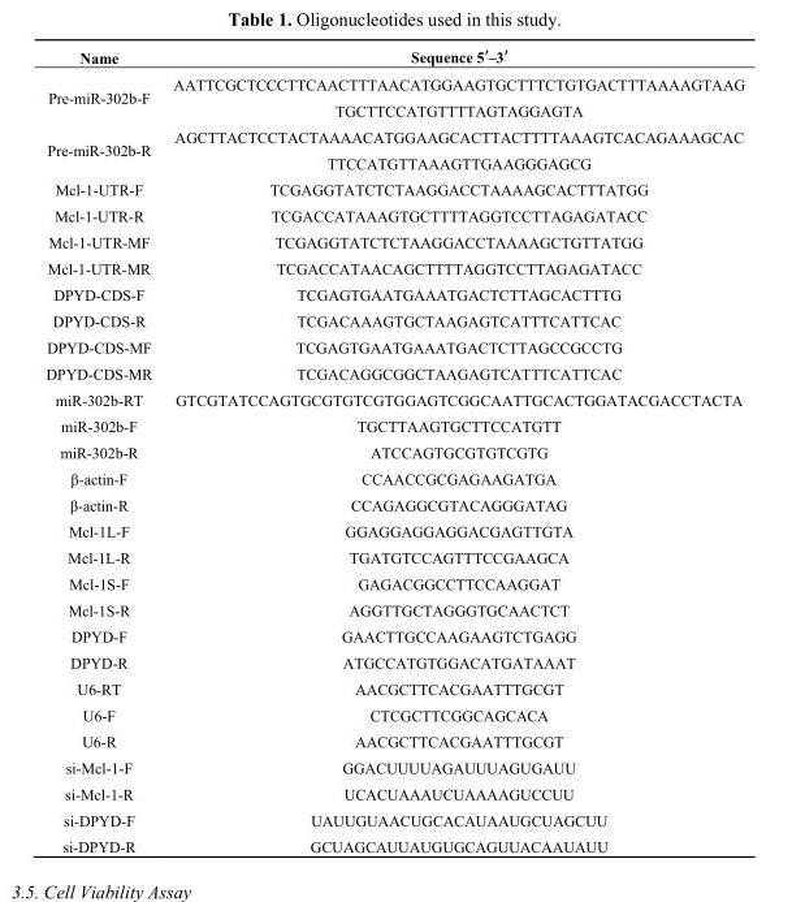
<table><thead><tr><td>Name</td><td>Sequence 5′–3′</td></tr></thead><tbody><tr><td>Pre-miR-302b-F</td><td>AATTCGCTCCCTTCAACTTTAACATGGAAGTGCTTTCTGTGACTTTAAAAGTAAG TGCTTCCATGTTTTAGTAGGAGTA</td></tr><tr><td>Pre-miR-302b-R</td><td>AGCTTACTCCTACTAAAACATGGAAGCACTTACTTTTAAAGTCACAGAAAGCAC TTCCATGTTAAAGTTGAAGGGAGCG</td></tr><tr><td>Mcl-1-UTR-F</td><td>TCGAGGTATCTCTAAGGACCTAAAAGCACTTTATGG</td></tr><tr><td>Mcl-1-UTR-R</td><td>TCGACCATAAAGTGCTTTTAGGTCCTTAGAGATACC</td></tr><tr><td>Mcl-1-UTR-MF</td><td>TCGAGGTATCTCTAAGGACCTAAAAGCTGTTATGG</td></tr><tr><td>Mcl-1-UTR-MR</td><td>TCGACCATAACAGCTTTTAGGTCCTTAGAGATACC</td></tr><tr><td>DPYD-CDS-F</td><td>TCGAGTGAATGAAATGACTCTTAGCACTTTG</td></tr><tr><td>DPYD-CDS-R</td><td>TCGACAAAGTGCTAAGAGTCATTTCATTCAC</td></tr><tr><td>DPYD-CDS-MF</td><td>TCGAGTGAATGAAATGACTCTTAGCCGCCTG</td></tr><tr><td>DPYD-CDS-MR</td><td>TCGACAGGCGGCTAAGAGTCATTTCATTCAC</td></tr><tr><td>miR-302b-RT</td><td>GTCGTATCCAGTGCGTGTCGTGGAGTCGGCAATTGCACTGGATACGACCTACTA</td></tr><tr><td>miR-302b-F</td><td>TGCTTAAGTGCTTCCATGTT</td></tr><tr><td>miR-302b-R</td><td>ATCCAGTGCGTGTCGTG</td></tr><tr><td>β-actin-F</td><td>CCAACCGCGAGAAGATGA</td></tr><tr><td>β-actin-R</td><td>CCAGAGGCGTACAGGGATAG</td></tr><tr><td>Mcl-1L-F</td><td>GGAGGAGGAGGACGAGTTGTA</td></tr><tr><td>Mcl-1L-R</td><td>TGATGTCCAGTTTCCGAAGCA</td></tr><tr><td>Mcl-1S-F</td><td>GAGACGGCCTTCCAAGGAT</td></tr><tr><td>Mcl-1S-R</td><td>AGGTTGCTAGGGTGCAACTCT</td></tr><tr><td>DPYD-F</td><td>GAACTTGCCAAGAAGTCTGAGG</td></tr><tr><td>DPYD-R</td><td>ATGCCATGTGGACATGATAAAT</td></tr><tr><td>U6-RT</td><td>AACGCTTCACGAATTTGCGT</td></tr><tr><td>U6-F</td><td>CTCGCTTCGGCAGCACA</td></tr><tr><td>U6-R</td><td>AACGCTTCACGAATTTGCGT</td></tr><tr><td>si-Mcl-1-F</td><td>GGACUUUUAGAUUUAGUGAUU</td></tr><tr><td>si-Mcl-1-R</td><td>UCACUAAAUCUAAAAGUCCUU</td></tr><tr><td>si-DPYD-F</td><td>UAUUGUAACUGCACAUAAUGCUAGCUU</td></tr><tr><td>si-DPYD-R</td><td>GCUAGCAUUAUGUGCAGUUACAAUAUU</td></tr></tbody></table>